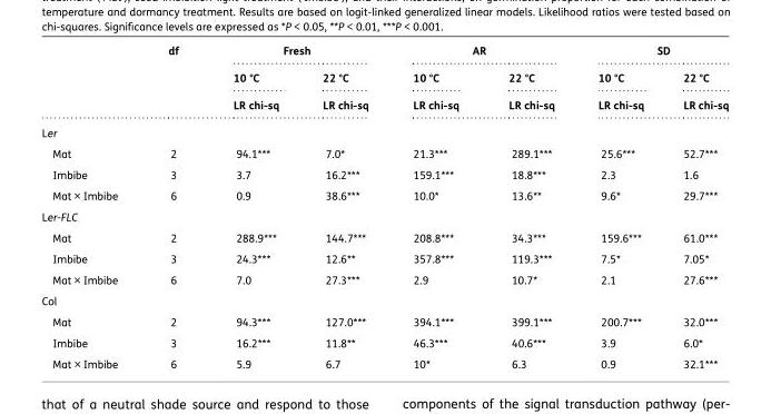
<table><thead><tr><td rowspan="3"></td><td rowspan="3">df</td><td colspan="2">Fresh</td><td colspan="2">AR</td><td colspan="2">SD</td></tr><tr><td rowspan="2">10 °C LR chi-sq</td><td rowspan="2">22 °C LR chi-sq</td><td rowspan="2">10 °C LR chi-sq</td><td rowspan="2">22 °C LR chi-sq</td><td rowspan="2">10 °C LR chi-sq</td><td rowspan="2">22 °C LR chi-sq</td></tr><tr></tr></thead><tbody><tr><td colspan="8">Ler</td></tr><tr><td>Mat</td><td>2</td><td>94.1***</td><td>7.0*</td><td>21.3***</td><td>289.1***</td><td>25.6***</td><td>52.7***</td></tr><tr><td>Imbibe</td><td>3</td><td>3.7</td><td>16.2***</td><td>159.1***</td><td>18.8***</td><td>2.3</td><td>1.6</td></tr><tr><td>Mat × Imbibe</td><td>6</td><td>0.9</td><td>38.6***</td><td>10.0*</td><td>13.6**</td><td>9.6*</td><td>29.7***</td></tr><tr><td colspan="8">Ler-FLC</td></tr><tr><td>Mat</td><td>2</td><td>288.9***</td><td>144.7***</td><td>208.8***</td><td>34.3***</td><td>159.6***</td><td>61.0***</td></tr><tr><td>Imbibe</td><td>3</td><td>24.3***</td><td>12.6**</td><td>357.8***</td><td>119.3***</td><td>7.5*</td><td>7.05*</td></tr><tr><td>Mat × Imbibe</td><td>6</td><td>7.0</td><td>27.3***</td><td>2.9</td><td>10.7*</td><td>2.1</td><td>27.6***</td></tr><tr><td colspan="8">Col</td></tr><tr><td>Mat</td><td>2</td><td>94.3***</td><td>127.0***</td><td>394.1***</td><td>399.1***</td><td>200.7***</td><td>32.0***</td></tr><tr><td>Imbibe</td><td>3</td><td>16.2***</td><td>11.8**</td><td>46.3***</td><td>40.6***</td><td>3.9</td><td>6.0*</td></tr><tr><td>Mat × Imbibe</td><td>6</td><td>5.9</td><td>6.7</td><td>10*</td><td>6.3</td><td>0.9</td><td>32.1***</td></tr></tbody></table>